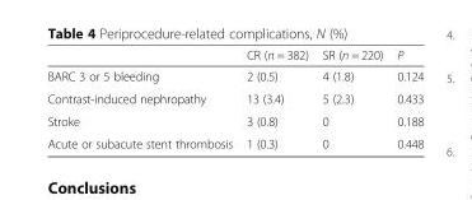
<table><thead><tr><td></td><td>CR (n = 382)</td><td>SR (n = 220)</td><td>P</td></tr></thead><tbody><tr><td>BARC 3 or 5 bleeding</td><td>2 (0.5)</td><td>4 (1.8)</td><td>0.124</td></tr><tr><td>Contrast-induced nephropathy</td><td>13 (3.4)</td><td>5 (2.3)</td><td>0.433</td></tr><tr><td>Stroke</td><td>3 (0.8)</td><td>0</td><td>0.188</td></tr><tr><td>Acute or subacute stent thrombosis</td><td>1 (0.3)</td><td>0</td><td>0.448</td></tr></tbody></table>